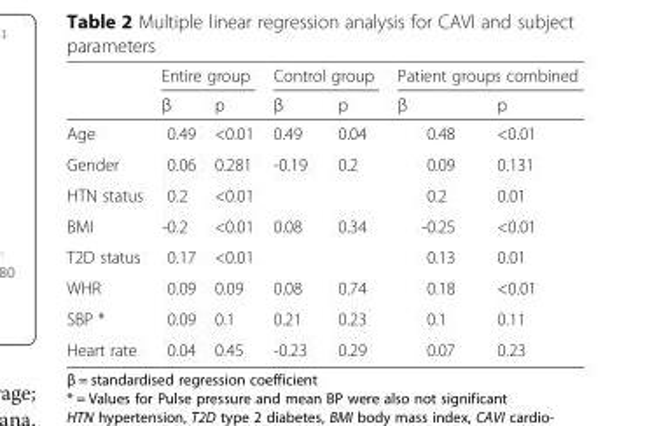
<table><thead><tr><td rowspan="2"></td><td colspan="2">Entire group</td><td colspan="2">Control group</td><td colspan="2">Patient groups combined</td></tr><tr><td>β</td><td>p</td><td>β</td><td>p</td><td>β</td><td>p</td></tr></thead><tbody><tr><td>Age</td><td>0.49</td><td>&lt;0.01</td><td>0.49</td><td>0.04</td><td>0.48</td><td>&lt;0.01</td></tr><tr><td>Gender</td><td>0.06</td><td>0.281</td><td>-0.19</td><td>0.2</td><td>0.09</td><td>0.131</td></tr><tr><td>HTN status</td><td>0.2</td><td>&lt;0.01</td><td></td><td></td><td>0.2</td><td>0.01</td></tr><tr><td>BMI</td><td>-0.2</td><td>&lt;0.01</td><td>0.08</td><td>0.34</td><td>-0.25</td><td>&lt;0.01</td></tr><tr><td>T2D status</td><td>0.17</td><td>&lt;0.01</td><td></td><td></td><td>0.13</td><td>0.01</td></tr><tr><td>WHR</td><td>0.09</td><td>0.09</td><td>0.08</td><td>0.74</td><td>0.18</td><td>&lt;0.01</td></tr><tr><td>SBP *</td><td>0.09</td><td>0.1</td><td>0.21</td><td>0.23</td><td>0.1</td><td>0.11</td></tr><tr><td>Heart rate</td><td>0.04</td><td>0.45</td><td>-0.23</td><td>0.29</td><td>0.07</td><td>0.23</td></tr></tbody></table>